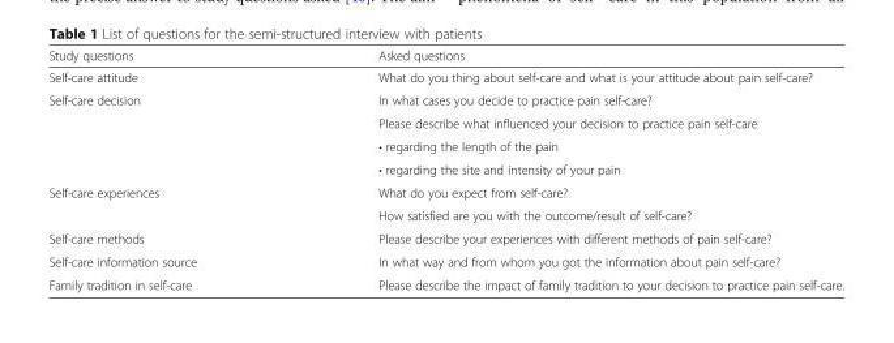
<table><thead><tr><td>Study questions</td><td>Asked questions</td></tr></thead><tbody><tr><td>Self-care attitude</td><td>What do you thing about self-care and what is your attitude about pain self-care?</td></tr><tr><td rowspan="4">Self-care decision</td><td>In what cases you decide to practice pain self-care?</td></tr><tr><td>Please describe what influenced your decision to practice pain self-care</td></tr><tr><td>• regarding the length of the pain</td></tr><tr><td>• regarding the site and intensity of your pain</td></tr><tr><td rowspan="2">Self-care experiences</td><td>What do you expect from self-care?</td></tr><tr><td>How satisfied are you with the outcome/result of self-care?</td></tr><tr><td>Self-care methods</td><td>Please describe your experiences with different methods of pain self-care?</td></tr><tr><td>Self-care information source</td><td>In what way and from whom you got the information about pain self-care?</td></tr><tr><td>Family tradition in self-care</td><td>Please describe the impact of family tradition to your decision to practice pain self-care.</td></tr></tbody></table>